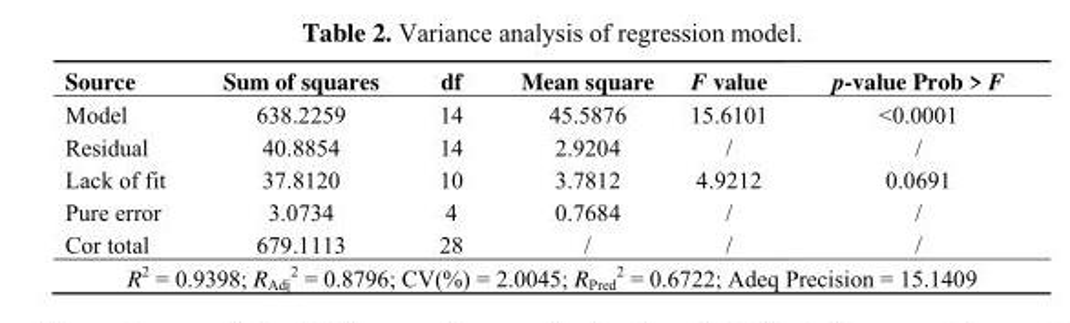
<table><thead><tr><td>Source</td><td>Sum of squares</td><td>df</td><td>Mean square</td><td>F value</td><td>p-value Prob &gt; F</td></tr></thead><tbody><tr><td>Model</td><td>638.2259</td><td>14</td><td>45.5876</td><td>15.6101</td><td>&lt;0.0001</td></tr><tr><td>Residual</td><td>40.8854</td><td>14</td><td>2.9204</td><td>/</td><td>/</td></tr><tr><td>Lack of fit</td><td>37.8120</td><td>10</td><td>3.7812</td><td>4.9212</td><td>0.0691</td></tr><tr><td>Pure error</td><td>3.0734</td><td>4</td><td>0.7684</td><td>/</td><td>/</td></tr><tr><td>Cor total</td><td>679.1113</td><td>28</td><td>/</td><td>/</td><td>/</td></tr></tbody></table>